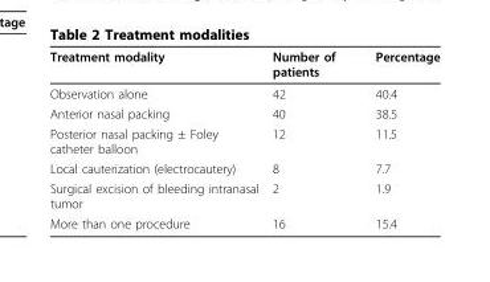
<table><thead><tr><td>Treatment modality</td><td>Number of patients</td><td>Percentage</td></tr></thead><tbody><tr><td>Observation alone</td><td>42</td><td>40.4</td></tr><tr><td>Anterior nasal packing</td><td>40</td><td>38.5</td></tr><tr><td>Posterior nasal packing ± Foley catheter balloon</td><td>12</td><td>11.5</td></tr><tr><td>Local cauterization (electrocautery)</td><td>8</td><td>7.7</td></tr><tr><td>Surgical excision of bleeding intranasal tumor</td><td>2</td><td>1.9</td></tr><tr><td>More than one procedure</td><td>16</td><td>15.4</td></tr></tbody></table>